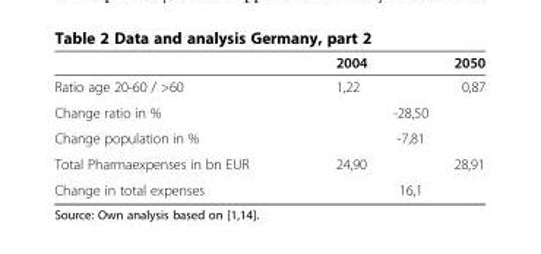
<table><thead><tr><td></td><td>2004</td><td>2050</td></tr></thead><tbody><tr><td>Ratio age 20-60 / &gt;60</td><td>1,22</td><td>0,87</td></tr><tr><td>Change ratio in %</td><td colspan="2">-28,50</td></tr><tr><td>Change population in %</td><td colspan="2">-7,81</td></tr><tr><td>Total Pharmaexpenses in bn EUR</td><td>24,90</td><td>28,91</td></tr><tr><td>Change in total expenses</td><td colspan="2">16,1</td></tr></tbody></table>